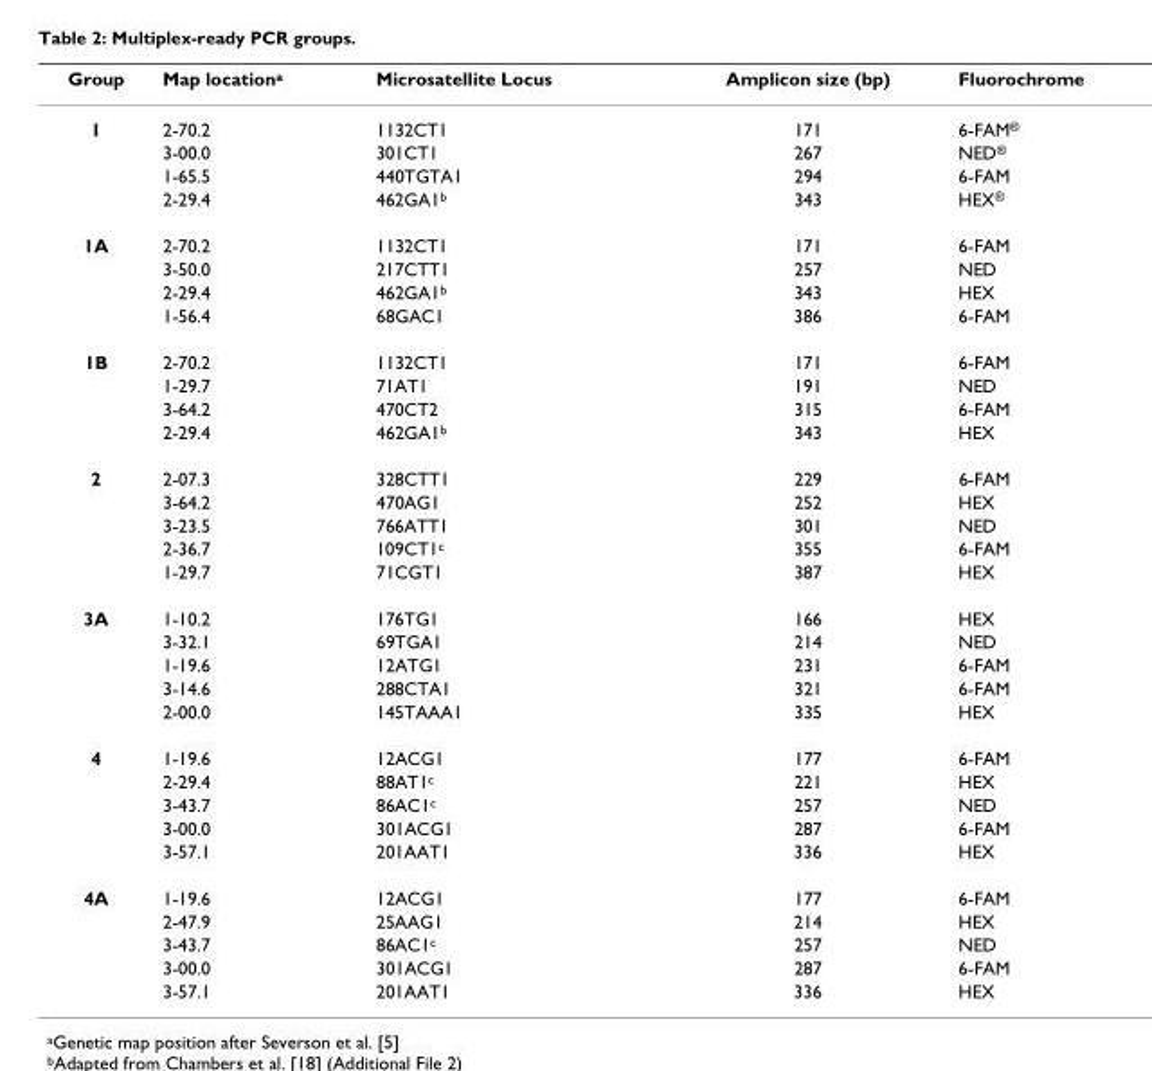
<table><thead><tr><td>Group</td><td>Map location<sup>a</sup></td><td>Microsatellite Locus</td><td>Amplicon size (bp)</td><td>Fluorochrome</td></tr></thead><tbody><tr><td rowspan="4">1</td><td>2-70.2</td><td>1132CT1</td><td>171</td><td>6-FAM<sup>®</sup></td></tr><tr><td>3-00.0</td><td>301CT1</td><td>267</td><td>NED<sup>®</sup></td></tr><tr><td>1-65.5</td><td>440TGTA1</td><td>294</td><td>6-FAM</td></tr><tr><td>2-29.4</td><td>462GA1<sup>b</sup></td><td>343</td><td>HEX<sup>®</sup></td></tr><tr><td rowspan="4">1A</td><td>2-70.2</td><td>1132CT1</td><td>171</td><td>6-FAM</td></tr><tr><td>3-50.0</td><td>217CTT1</td><td>257</td><td>NED</td></tr><tr><td>2-29.4</td><td>462GA1<sup>b</sup></td><td>343</td><td>HEX</td></tr><tr><td>1-56.4</td><td>68GAC1</td><td>386</td><td>6-FAM</td></tr><tr><td rowspan="4">1B</td><td>2-70.2</td><td>1132CT1</td><td>171</td><td>6-FAM</td></tr><tr><td>1-29.7</td><td>71AT1</td><td>191</td><td>NED</td></tr><tr><td>3-64.2</td><td>470CT2</td><td>315</td><td>6-FAM</td></tr><tr><td>2-29.4</td><td>462GA1<sup>b</sup></td><td>343</td><td>HEX</td></tr><tr><td rowspan="5">2</td><td>2-07.3</td><td>328CTT1</td><td>229</td><td>6-FAM</td></tr><tr><td>3-64.2</td><td>470AG1</td><td>252</td><td>HEX</td></tr><tr><td>3-23.5</td><td>766ATT1</td><td>301</td><td>NED</td></tr><tr><td>2-36.7</td><td>109CT1<sup>c</sup></td><td>355</td><td>6-FAM</td></tr><tr><td>1-29.7</td><td>71CGT1</td><td>387</td><td>HEX</td></tr><tr><td rowspan="5">3A</td><td>1-10.2</td><td>176TG1</td><td>166</td><td>HEX</td></tr><tr><td>3-32.1</td><td>69TGA1</td><td>214</td><td>NED</td></tr><tr><td>1-19.6</td><td>12ATG1</td><td>231</td><td>6-FAM</td></tr><tr><td>3-14.6</td><td>288CTA1</td><td>321</td><td>6-FAM</td></tr><tr><td>2-00.0</td><td>145TAAA1</td><td>335</td><td>HEX</td></tr><tr><td rowspan="5">4</td><td>1-19.6</td><td>12ACG1</td><td>177</td><td>6-FAM</td></tr><tr><td>2-29.4</td><td>88AT1<sup>c</sup></td><td>221</td><td>HEX</td></tr><tr><td>3-43.7</td><td>86AC1<sup>c</sup></td><td>257</td><td>NED</td></tr><tr><td>3-00.0</td><td>301ACG1</td><td>287</td><td>6-FAM</td></tr><tr><td>3-57.1</td><td>201AAT1</td><td>336</td><td>HEX</td></tr><tr><td rowspan="5">4A</td><td>1-19.6</td><td>12ACG1</td><td>177</td><td>6-FAM</td></tr><tr><td>2-47.9</td><td>25AAG1</td><td>214</td><td>HEX</td></tr><tr><td>3-43.7</td><td>86AC1<sup>c</sup></td><td>257</td><td>NED</td></tr><tr><td>3-00.0</td><td>301ACG1</td><td>287</td><td>6-FAM</td></tr><tr><td>3-57.1</td><td>201AAT1</td><td>336</td><td>HEX</td></tr></tbody></table>